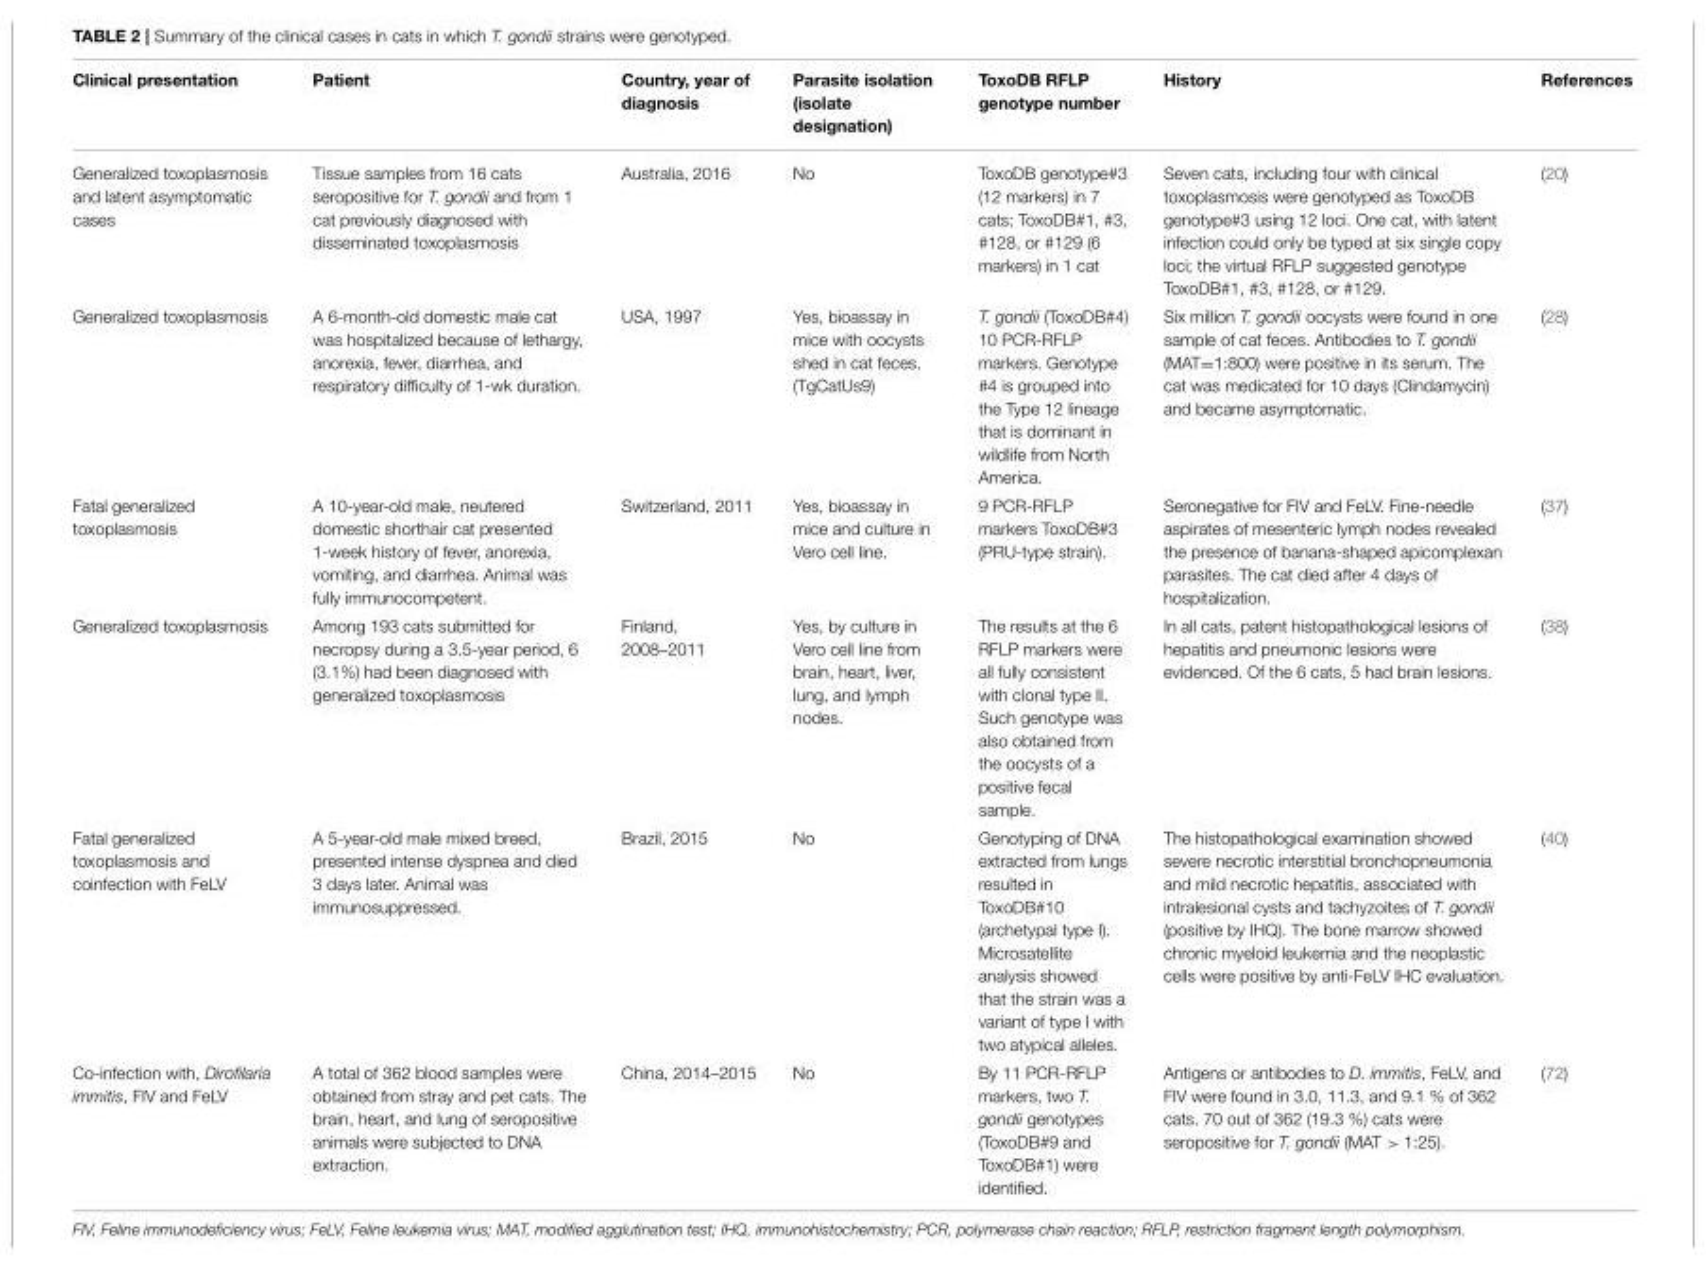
<table><thead><tr><td>Clinical presentation</td><td>Patient</td><td>Country, year of diagnosis</td><td>Parasite isolation (isolate designation)</td><td>ToxoDB RFLP genotype number</td><td>History</td><td>References</td></tr></thead><tbody><tr><td>Generalized toxoplasmosis and latent asymptomatic cases</td><td>Tissue samples from 16 cats seropositive for T. gondii and from 1 cat previously diagnosed with disseminated toxoplasmosis</td><td>Australia, 2016</td><td>No</td><td>ToxoDB genotype#3 (12 markers) in 7 cats; ToxoDB#1, #3, #128, or #129 (6 markers) in 1 cat</td><td>Seven cats, including four with clinical toxoplasmosis were genotyped as ToxoDB genotype#3 using 12 loci. One cat, with latent infection could only be typed at six single copy loci; the virtual RFLP suggested genotype ToxoDB#1, #3, #128, or #129.</td><td>(20)</td></tr><tr><td>Generalized toxoplasmosis</td><td>A 6-month-old domestic male cat was hospitalized because of lethargy, anorexia, fever, diarrhea, and respiratory difficulty of 1-wk duration.</td><td>USA, 1997</td><td>Yes, bioassay in mice with oocysts shed in cat feces. (TgCatUs9)</td><td>T. gondii (ToxoDB#4) 10 PCR-RFLP markers. Genotype #4 is grouped into the Type 12 lineage that is dominant in wildlife from North America.</td><td>Six million T. gondii oocysts were found in one sample of cat feces. Antibodies to T. gondii (MAT=1:800) were positive in its serum. The cat was medicated for 10 days (Clindamycin) and became asymptomatic.</td><td>(28)</td></tr><tr><td>Fatal generalized toxoplasmosis</td><td>A 10-year-old male, neutered domestic shorthair cat presented 1-week history of fever, anorexia, vomiting, and diarrhea. Animal was fully immunocompetent.</td><td>Switzerland, 2011</td><td>Yes, bioassay in mice and culture in Vero cell line.</td><td>9 PCR-RFLP markers ToxoDB#3 (PRU-type strain).</td><td>Seronegative for FIV and FeLV. Fine-needle aspirates of mesenteric lymph nodes revealed the presence of banana-shaped apicomplexan parasites. The cat died after 4 days of hospitalization.</td><td>(37)</td></tr><tr><td>Generalized toxoplasmosis</td><td>Among 193 cats submitted for necropsy during a 3.5-year period, 6 (3.1%) had been diagnosed with generalized toxoplasmosis</td><td>Finland, 2008–2011</td><td>Yes, by culture in Vero cell line from brain, heart, liver, lung, and lymph nodes.</td><td>The results at the 6 RFLP markers were all fully consistent with clonal type II. Such genotype was also obtained from the oocysts of a positive fecal sample.</td><td>In all cats, patent histopathological lesions of hepatitis and pneumonic lesions were evidenced. Of the 6 cats, 5 had brain lesions.</td><td>(38)</td></tr><tr><td>Fatal generalized toxoplasmosis and coinfection with FeLV</td><td>A 5-year-old male mixed breed, presented intense dyspnea and died 3 days later. Animal was immunosuppressed.</td><td>Brazil, 2015</td><td>No</td><td>Genotyping of DNA extracted from lungs resulted in ToxoDB#10 (archetypal type I). Microsatellite analysis showed that the strain was a variant of type I with two atypical alleles.</td><td>The histopathological examination showed severe necrotic interstitial bronchopneumonia and mild necrotic hepatitis, associated with intralesional cysts and tachyzoites of T. gondii (positive by IHQ). The bone marrow showed chronic myeloid leukemia and the neoplastic cells were positive by anti-FeLV IHC evaluation.</td><td>(40)</td></tr><tr><td>Co-infection with, Dirofilaria immitis, FIV and FeLV</td><td>A total of 362 blood samples were obtained from stray and pet cats. The brain, heart, and lung of seropositive animals were subjected to DNA extraction.</td><td>China, 2014–2015</td><td>No</td><td>By 11 PCR-RFLP markers, two T. gondii genotypes (ToxoDB#9 and ToxoDB#1) were identified.</td><td>Antigens or antibodies to D. immitis, FeLV, and FIV were found in 3.0, 11.3, and 9.1 % of 362 cats. 70 out of 362 (19.3 %) cats were seropositive for T. gondii (MAT &gt; 1:25).</td><td>(72)</td></tr></tbody></table>